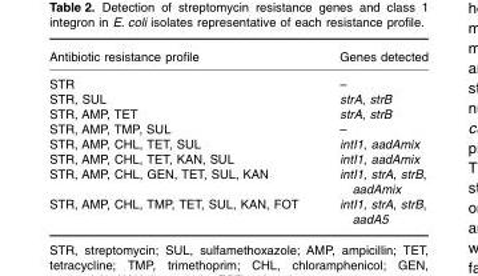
<table><thead><tr><td>Antibiotic resistance profile</td><td>Genes detected</td></tr></thead><tbody><tr><td>STR</td><td>–</td></tr><tr><td>STR, SUL</td><td>strA, strB</td></tr><tr><td>STR, AMP, TET</td><td>strA, strB</td></tr><tr><td>STR, AMP, TMP, SUL</td><td>–</td></tr><tr><td>STR, AMP, CHL, TET, SUL</td><td>intI1, aadAmix</td></tr><tr><td>STR, AMP, CHL, TET, KAN, SUL</td><td>intI1, aadAmix</td></tr><tr><td>STR, AMP, CHL, GEN, TET, SUL, KAN</td><td>intI1, strA, strB, aadAmix</td></tr><tr><td>STR, AMP, CHL, TMP, TET, SUL, KAN, FOT</td><td>intI1, strA, strB, aadA5</td></tr></tbody></table>